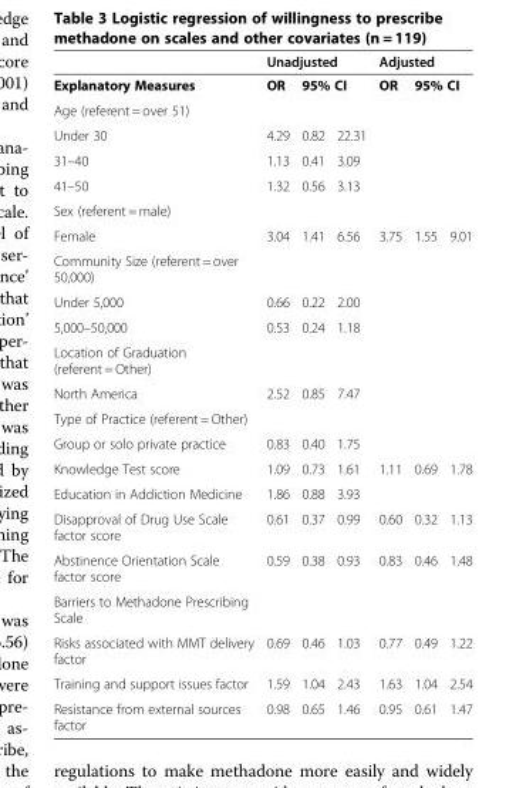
<table><thead><tr><td rowspan="3">Explanatory Measures Age (referent = over 51)</td><td colspan="3">Unadjusted</td><td colspan="3">Adjusted</td></tr><tr><td rowspan="2">OR</td><td colspan="2">95% CI</td><td rowspan="2">OR</td><td colspan="2">95% CI</td></tr><tr><td></td><td></td><td></td><td></td></tr></thead><tbody><tr><td>Under 30</td><td>4.29</td><td>0.82</td><td>22.31</td><td></td><td></td><td></td></tr><tr><td>31–40</td><td>1.13</td><td>0.41</td><td>3.09</td><td></td><td></td><td></td></tr><tr><td>41–50</td><td>1.32</td><td>0.56</td><td>3.13</td><td></td><td></td><td></td></tr><tr><td colspan="7">Sex (referent = male)</td></tr><tr><td>Female</td><td>3.04</td><td>1.41</td><td>6.56</td><td>3.75</td><td>1.55</td><td>9.01</td></tr><tr><td colspan="7">Community Size (referent = over 50,000)</td></tr><tr><td>Under 5,000</td><td>0.66</td><td>0.22</td><td>2.00</td><td></td><td></td><td></td></tr><tr><td>5,000–50,000</td><td>0.53</td><td>0.24</td><td>1.18</td><td></td><td></td><td></td></tr><tr><td colspan="7">Location of Graduation (referent = Other)</td></tr><tr><td>North America</td><td>2.52</td><td>0.85</td><td>7.47</td><td></td><td></td><td></td></tr><tr><td colspan="7">Type of Practice (referent = Other)</td></tr><tr><td>Group or solo private practice</td><td>0.83</td><td>0.40</td><td>1.75</td><td></td><td></td><td></td></tr><tr><td>Knowledge Test score</td><td>1.09</td><td>0.73</td><td>1.61</td><td>1.11</td><td>0.69</td><td>1.78</td></tr><tr><td>Education in Addiction Medicine</td><td>1.86</td><td>0.88</td><td>3.93</td><td></td><td></td><td></td></tr><tr><td>Disapproval of Drug Use Scale factor score</td><td>0.61</td><td>0.37</td><td>0.99</td><td>0.60</td><td>0.32</td><td>1.13</td></tr><tr><td>Abstinence Orientation Scale factor score</td><td>0.59</td><td>0.38</td><td>0.93</td><td>0.83</td><td>0.46</td><td>1.48</td></tr><tr><td colspan="7">Barriers to Methadone Prescribing Scale</td></tr><tr><td>Risks associated with MMT delivery factor</td><td>0.69</td><td>0.46</td><td>1.03</td><td>0.77</td><td>0.49</td><td>1.22</td></tr><tr><td>Training and support issues factor</td><td>1.59</td><td>1.04</td><td>2.43</td><td>1.63</td><td>1.04</td><td>2.54</td></tr><tr><td>Resistance from external sources factor</td><td>0.98</td><td>0.65</td><td>1.46</td><td>0.95</td><td>0.61</td><td>1.47</td></tr></tbody></table>